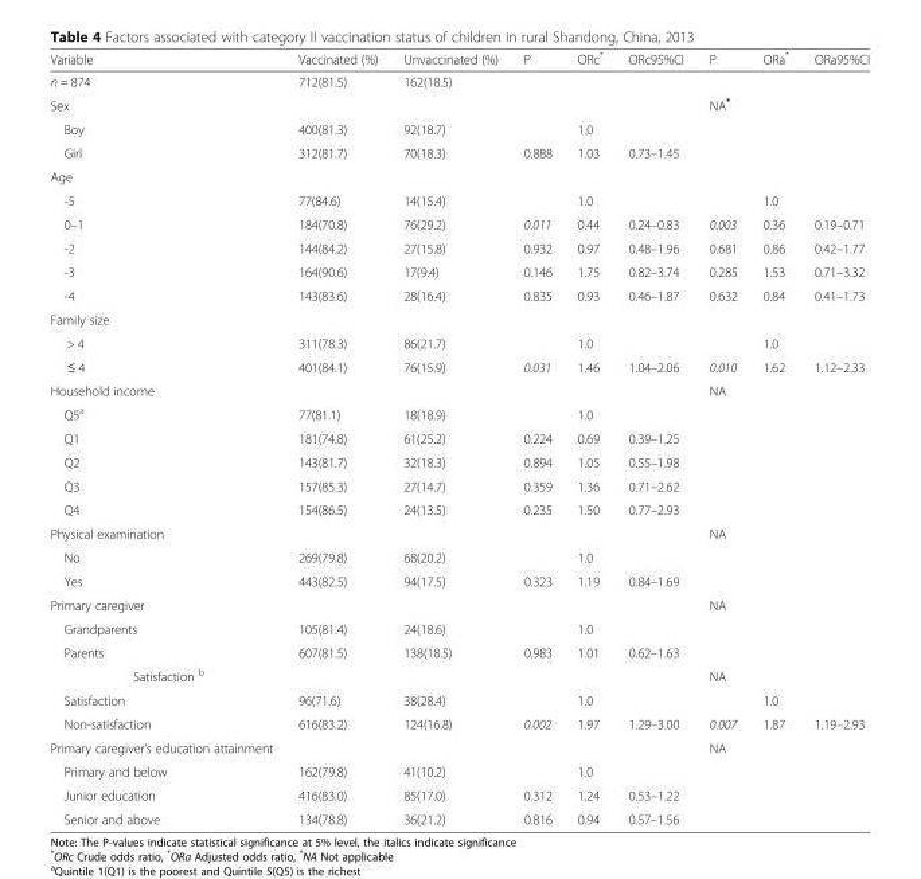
<table><thead><tr><td>Variable</td><td>Vaccinated (%)</td><td>Unvaccinated (%)</td><td>P</td><td>ORc*</td><td>ORc95%CI</td><td>P</td><td>ORa*</td><td>ORa95%CI</td></tr></thead><tbody><tr><td>n = 874</td><td>712(81.5)</td><td colspan="2">162(18.5)</td><td></td><td></td><td></td><td></td><td></td></tr><tr><td>Sex</td><td></td><td></td><td></td><td></td><td></td><td>NA*</td><td></td><td></td></tr><tr><td>Boy</td><td>400(81.3)</td><td>92(18.7)</td><td></td><td>1.0</td><td></td><td></td><td></td><td></td></tr><tr><td>Girl</td><td>312(81.7)</td><td>70(18.3)</td><td>0.888</td><td>1.03</td><td>0.73–1.45</td><td></td><td></td><td></td></tr><tr><td colspan="9">Age</td></tr><tr><td>-5</td><td>77(84.6)</td><td>14(15.4)</td><td></td><td>1.0</td><td></td><td></td><td>1.0</td><td></td></tr><tr><td>0–1</td><td>184(70.8)</td><td>76(29.2)</td><td>0.011</td><td>0.44</td><td>0.24–0.83</td><td>0.003</td><td>0.36</td><td>0.19–0.71</td></tr><tr><td>-2</td><td>144(84.2)</td><td>27(15.8)</td><td>0.932</td><td>0.97</td><td>0.48–1.96</td><td>0.681</td><td>0.86</td><td>0.42–1.77</td></tr><tr><td>-3</td><td>164(90.6)</td><td>17(9.4)</td><td>0.146</td><td>1.75</td><td>0.82–3.74</td><td>0.285</td><td>1.53</td><td>0.71–3.32</td></tr><tr><td>-4</td><td>143(83.6)</td><td>28(16.4)</td><td>0.835</td><td>0.93</td><td>0.46–1.87</td><td>0.632</td><td>0.84</td><td>0.41–1.73</td></tr><tr><td colspan="9">Family size</td></tr><tr><td>&gt; 4</td><td>311(78.3)</td><td>86(21.7)</td><td></td><td>1.0</td><td></td><td></td><td>1.0</td><td></td></tr><tr><td>≤ 4</td><td>401(84.1)</td><td>76(15.9)</td><td>0.031</td><td>1.46</td><td>1.04–2.06</td><td>0.010</td><td>1.62</td><td>1.12–2.33</td></tr><tr><td>Household income</td><td></td><td></td><td></td><td></td><td></td><td>NA</td><td></td><td></td></tr><tr><td>Q5<sup>a</sup></td><td>77(81.1)</td><td>18(18.9)</td><td></td><td>1.0</td><td></td><td></td><td></td><td></td></tr><tr><td>Q1</td><td>181(74.8)</td><td>61(25.2)</td><td>0.224</td><td>0.69</td><td>0.39–1.25</td><td></td><td></td><td></td></tr><tr><td>Q2</td><td>143(81.7)</td><td>32(18.3)</td><td>0.894</td><td>1.05</td><td>0.55–1.98</td><td></td><td></td><td></td></tr><tr><td>Q3</td><td>157(85.3)</td><td>27(14.7)</td><td>0.359</td><td>1.36</td><td>0.71–2.62</td><td></td><td></td><td></td></tr><tr><td>Q4</td><td>154(86.5)</td><td>24(13.5)</td><td>0.235</td><td>1.50</td><td>0.77–2.93</td><td></td><td></td><td></td></tr><tr><td>Physical examination</td><td></td><td></td><td></td><td></td><td></td><td>NA</td><td></td><td></td></tr><tr><td>No</td><td>269(79.8)</td><td>68(20.2)</td><td></td><td>1.0</td><td></td><td></td><td></td><td></td></tr><tr><td>Yes</td><td>443(82.5)</td><td>94(17.5)</td><td>0.323</td><td>1.19</td><td>0.84–1.69</td><td></td><td></td><td></td></tr><tr><td>Primary caregiver</td><td></td><td></td><td></td><td></td><td></td><td>NA</td><td></td><td></td></tr><tr><td>Grandparents</td><td>105(81.4)</td><td>24(18.6)</td><td></td><td>1.0</td><td></td><td></td><td></td><td></td></tr><tr><td>Parents</td><td>607(81.5)</td><td>138(18.5)</td><td>0.983</td><td>1.01</td><td>0.62–1.63</td><td></td><td></td><td></td></tr><tr><td>Satisfaction <sup>b</sup></td><td></td><td></td><td></td><td></td><td></td><td>NA</td><td></td><td></td></tr><tr><td>Satisfaction</td><td>96(71.6)</td><td>38(28.4)</td><td></td><td>1.0</td><td></td><td></td><td>1.0</td><td></td></tr><tr><td>Non-satisfaction</td><td>616(83.2)</td><td>124(16.8)</td><td>0.002</td><td>1.97</td><td>1.29–3.00</td><td>0.007</td><td>1.87</td><td>1.19–2.93</td></tr><tr><td>Primary caregiver’s education attainment</td><td></td><td></td><td></td><td></td><td></td><td>NA</td><td></td><td></td></tr><tr><td>Primary and below</td><td>162(79.8)</td><td>41(10.2)</td><td></td><td>1.0</td><td></td><td></td><td></td><td></td></tr><tr><td>Junior education</td><td>416(83.0)</td><td>85(17.0)</td><td>0.312</td><td>1.24</td><td>0.53–1.22</td><td></td><td></td><td></td></tr><tr><td>Senior and above</td><td>134(78.8)</td><td>36(21.2)</td><td>0.816</td><td>0.94</td><td>0.57–1.56</td><td></td><td></td><td></td></tr></tbody></table>